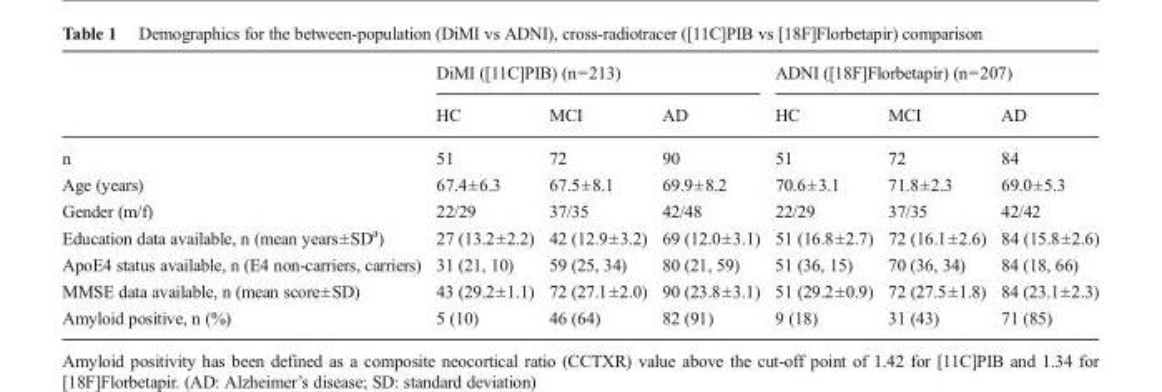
<table><thead><tr><td rowspan="2"></td><td colspan="3">DiMI ([11C]PIB) (n=213)</td><td colspan="3">ADNI ([18F]Florbetapir) (n=207)</td></tr><tr><td>HC</td><td>MCI</td><td>AD</td><td>HC</td><td>MCI</td><td>AD</td></tr></thead><tbody><tr><td>n</td><td>51</td><td>72</td><td>90</td><td>51</td><td>72</td><td>84</td></tr><tr><td>Age (years)</td><td>67.4±6.3</td><td>67.5±8.1</td><td>69.9±8.2</td><td>70.6±3.1</td><td>71.8±2.3</td><td>69.0±5.3</td></tr><tr><td>Gender (m/f)</td><td>22/29</td><td>37/35</td><td>42/48</td><td>22/29</td><td>37/35</td><td>42/42</td></tr><tr><td>Education data available, n (mean years±SD<sup>a</sup>)</td><td>27 (13.2±2.2)</td><td>42 (12.9±3.2)</td><td>69 (12.0±3.1)</td><td>51 (16.8±2.7)</td><td>72 (16.1±2.6)</td><td>84 (15.8±2.6)</td></tr><tr><td>ApoE4 status available, n (E4 non-carriers, carriers)</td><td>31 (21, 10)</td><td>59 (25, 34)</td><td>80 (21, 59)</td><td>51 (36, 15)</td><td>70 (36, 34)</td><td>84 (18, 66)</td></tr><tr><td>MMSE data available, n (mean score±SD)</td><td>43 (29.2±1.1)</td><td>72 (27.1±2.0)</td><td>90 (23.8±3.1)</td><td>51 (29.2±0.9)</td><td>72 (27.5±1.8)</td><td>84 (23.1±2.3)</td></tr><tr><td>Amyloid positive, n (%)</td><td>5 (10)</td><td>46 (64)</td><td>82 (91)</td><td>9 (18)</td><td>31 (43)</td><td>71 (85)</td></tr></tbody></table>